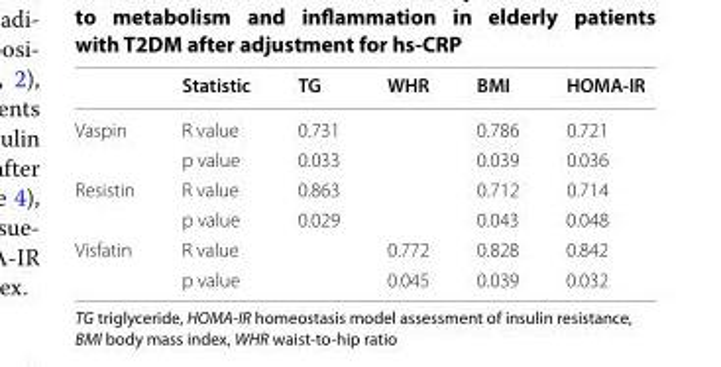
<table><thead><tr><td></td><td>Statistic</td><td>TG</td><td>WHR</td><td>BMI</td><td>HOMA‑IR</td></tr></thead><tbody><tr><td rowspan="2">Vaspin</td><td>R value</td><td>0.731</td><td></td><td>0.786</td><td>0.721</td></tr><tr><td>p value</td><td>0.033</td><td></td><td>0.039</td><td>0.036</td></tr><tr><td rowspan="2">Resistin</td><td>R value</td><td>0.863</td><td></td><td>0.712</td><td>0.714</td></tr><tr><td>p value</td><td>0.029</td><td></td><td>0.043</td><td>0.048</td></tr><tr><td rowspan="2">Visfatin</td><td>R value</td><td></td><td>0.772</td><td>0.828</td><td>0.842</td></tr><tr><td>p value</td><td></td><td>0.045</td><td>0.039</td><td>0.032</td></tr></tbody></table>